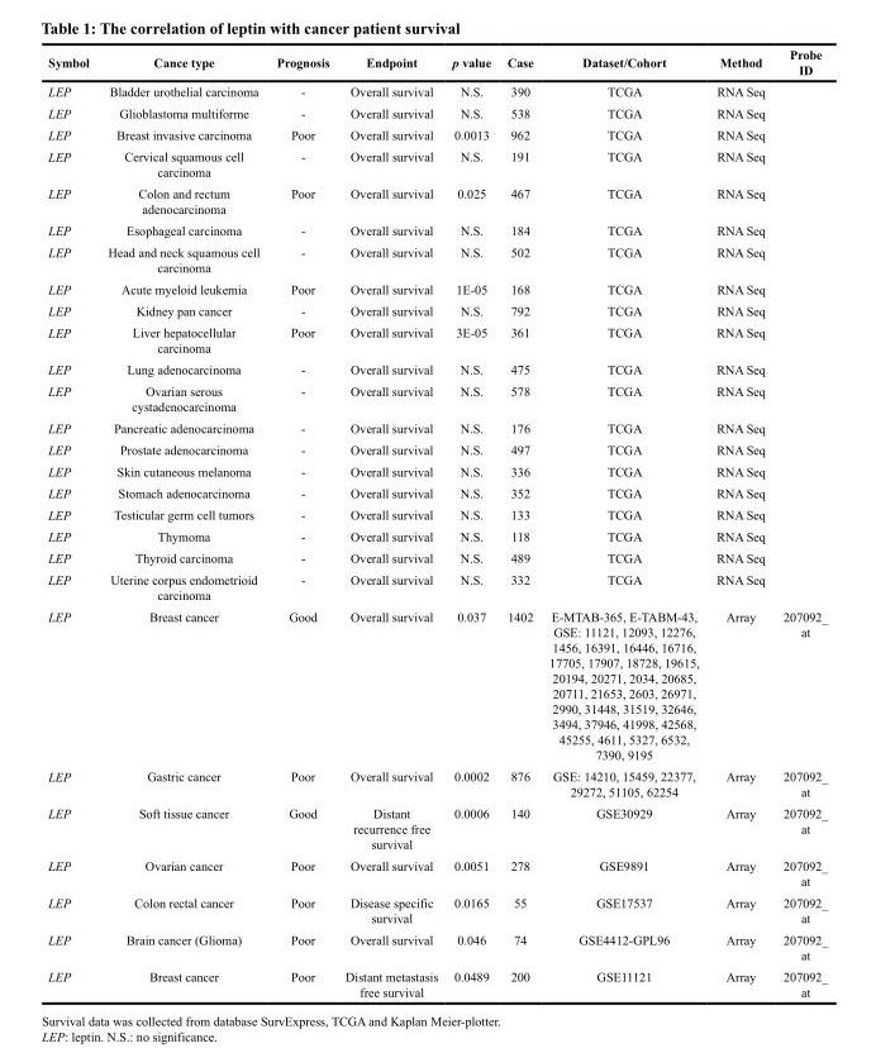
<table><thead><tr><td>Symbol</td><td>Cance type</td><td>Prognosis</td><td>Endpoint</td><td>p value</td><td>Case</td><td>Dataset/Cohort</td><td>Method</td><td>Probe ID</td></tr></thead><tbody><tr><td>LEP</td><td>Bladder urothelial carcinoma</td><td>-</td><td>Overall survival</td><td>N.S.</td><td>390</td><td>TCGA</td><td>RNA Seq</td><td></td></tr><tr><td>LEP</td><td>Glioblastoma multiforme</td><td>-</td><td>Overall survival</td><td>N.S.</td><td>538</td><td>TCGA</td><td>RNA Seq</td><td></td></tr><tr><td>LEP</td><td>Breast invasive carcinoma</td><td>Poor</td><td>Overall survival</td><td>0.0013</td><td>962</td><td>TCGA</td><td>RNA Seq</td><td></td></tr><tr><td>LEP</td><td>Cervical squamous cell carcinoma</td><td>-</td><td>Overall survival</td><td>N.S.</td><td>191</td><td>TCGA</td><td>RNA Seq</td><td></td></tr><tr><td>LEP</td><td>Colon and rectum adenocarcinoma</td><td>Poor</td><td>Overall survival</td><td>0.025</td><td>467</td><td>TCGA</td><td>RNA Seq</td><td></td></tr><tr><td>LEP</td><td>Esophageal carcinoma</td><td>-</td><td>Overall survival</td><td>N.S.</td><td>184</td><td>TCGA</td><td>RNA Seq</td><td></td></tr><tr><td>LEP</td><td>Head and neck squamous cell carcinoma</td><td>-</td><td>Overall survival</td><td>N.S.</td><td>502</td><td>TCGA</td><td>RNA Seq</td><td></td></tr><tr><td>LEP</td><td>Acute myeloid leukemia</td><td>Poor</td><td>Overall survival</td><td>1E-05</td><td>168</td><td>TCGA</td><td>RNA Seq</td><td></td></tr><tr><td>LEP</td><td>Kidney pan cancer</td><td>-</td><td>Overall survival</td><td>N.S.</td><td>792</td><td>TCGA</td><td>RNA Seq</td><td></td></tr><tr><td>LEP</td><td>Liver hepatocellular carcinoma</td><td>Poor</td><td>Overall survival</td><td>3E-05</td><td>361</td><td>TCGA</td><td>RNA Seq</td><td></td></tr><tr><td>LEP</td><td>Lung adenocarcinoma</td><td>-</td><td>Overall survival</td><td>N.S.</td><td>475</td><td>TCGA</td><td>RNA Seq</td><td></td></tr><tr><td>LEP</td><td>Ovarian serous cystadenocarcinoma</td><td>-</td><td>Overall survival</td><td>N.S.</td><td>578</td><td>TCGA</td><td>RNA Seq</td><td></td></tr><tr><td>LEP</td><td>Pancreatic adenocarcinoma</td><td>-</td><td>Overall survival</td><td>N.S.</td><td>176</td><td>TCGA</td><td>RNA Seq</td><td></td></tr><tr><td>LEP</td><td>Prostate adenocarcinoma</td><td>-</td><td>Overall survival</td><td>N.S.</td><td>497</td><td>TCGA</td><td>RNA Seq</td><td></td></tr><tr><td>LEP</td><td>Skin cutaneous melanoma</td><td>-</td><td>Overall survival</td><td>N.S.</td><td>336</td><td>TCGA</td><td>RNA Seq</td><td></td></tr><tr><td>LEP</td><td>Stomach adenocarcinoma</td><td>-</td><td>Overall survival</td><td>N.S.</td><td>352</td><td>TCGA</td><td>RNA Seq</td><td></td></tr><tr><td>LEP</td><td>Testicular germ cell tumors</td><td>-</td><td>Overall survival</td><td>N.S.</td><td>133</td><td>TCGA</td><td>RNA Seq</td><td></td></tr><tr><td>LEP</td><td>Thymoma</td><td>-</td><td>Overall survival</td><td>N.S.</td><td>118</td><td>TCGA</td><td>RNA Seq</td><td></td></tr><tr><td>LEP</td><td>Thyroid carcinoma</td><td>-</td><td>Overall survival</td><td>N.S.</td><td>489</td><td>TCGA</td><td>RNA Seq</td><td></td></tr><tr><td>LEP</td><td>Uterine corpus endometrioid carcinoma</td><td>-</td><td>Overall survival</td><td>N.S.</td><td>332</td><td>TCGA</td><td>RNA Seq</td><td></td></tr><tr><td>LEP</td><td>Breast cancer</td><td>Good</td><td>Overall survival</td><td>0.037</td><td>1402</td><td>E-MTAB-365, E-TABM-43, GSE: 11121, 12093, 12276, 1456, 16391, 16446, 16716, 17705, 17907, 18728, 19615, 20194, 20271, 2034, 20685, 20711, 21653, 2603, 26971, 2990, 31448, 31519, 32646, 3494, 37946, 41998, 42568, 45255, 4611, 5327, 6532, 7390, 9195</td><td>Array</td><td>207092_ at</td></tr><tr><td>LEP</td><td>Gastric cancer</td><td>Poor</td><td>Overall survival</td><td>0.0002</td><td>876</td><td>GSE: 14210, 15459, 22377, 29272, 51105, 62254</td><td>Array</td><td>207092_ at</td></tr><tr><td>LEP</td><td>Soft tissue cancer</td><td>Good</td><td>Distant recurrence free survival</td><td>0.0006</td><td>140</td><td>GSE30929</td><td>Array</td><td>207092_ at</td></tr><tr><td>LEP</td><td>Ovarian cancer</td><td>Poor</td><td>Overall survival</td><td>0.0051</td><td>278</td><td>GSE9891</td><td>Array</td><td>207092_ at</td></tr><tr><td>LEP</td><td>Colon rectal cancer</td><td>Poor</td><td>Disease specific survival</td><td>0.0165</td><td>55</td><td>GSE17537</td><td>Array</td><td>207092_ at</td></tr><tr><td>LEP</td><td>Brain cancer (Glioma)</td><td>Poor</td><td>Overall survival</td><td>0.046</td><td>74</td><td>GSE4412-GPL96</td><td>Array</td><td>207092_ at</td></tr><tr><td>LEP</td><td>Breast cancer</td><td>Poor</td><td>Distant metastasis free survival</td><td>0.0489</td><td>200</td><td>GSE11121</td><td>Array</td><td>207092_ at</td></tr></tbody></table>